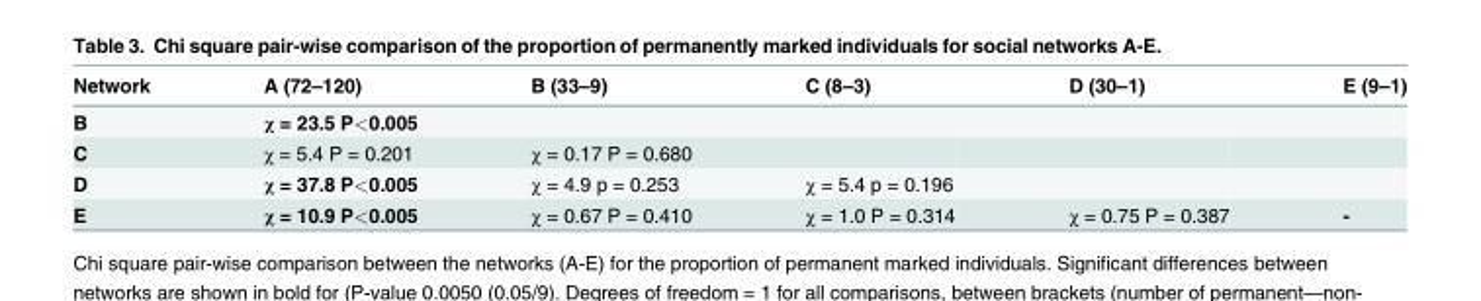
<table><thead><tr><td>Network</td><td>A (72–120)</td><td>B (33–9)</td><td>C (8–3)</td><td>D (30–1)</td><td>E (9–1)</td></tr></thead><tbody><tr><td>B</td><td>χ = 23.5 P&lt;0.005</td><td></td><td></td><td></td><td></td></tr><tr><td>C</td><td>χ = 5.4 P = 0.201</td><td>χ = 0.17 P = 0.680</td><td></td><td></td><td></td></tr><tr><td>D</td><td>χ = 37.8 P&lt;0.005</td><td>χ = 4.9 p = 0.253</td><td>χ = 5.4 p = 0.196</td><td></td><td></td></tr><tr><td>E</td><td>χ = 10.9 P&lt;0.005</td><td>χ = 0.67 P = 0.410</td><td>χ = 1.0 P = 0.314</td><td>χ = 0.75 P = 0.387</td><td>-</td></tr></tbody></table>